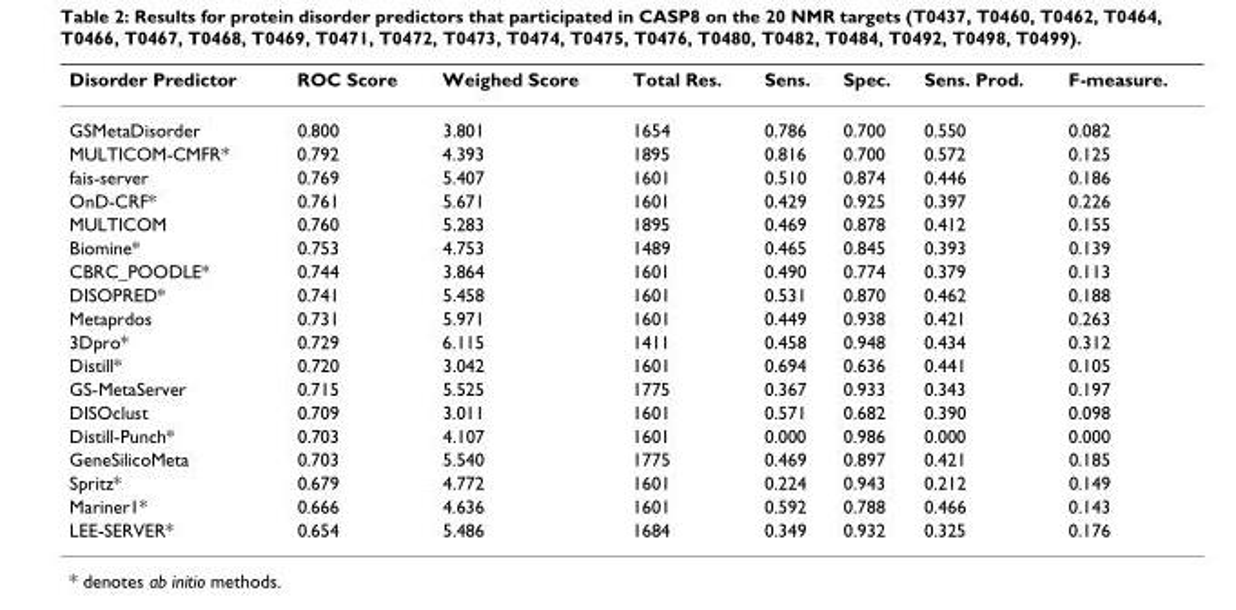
<table><thead><tr><td>Disorder Predictor</td><td>ROC Score</td><td>Weighed Score</td><td>Total Res.</td><td>Sens.</td><td>Spec.</td><td>Sens. Prod.</td><td>F-measure.</td></tr></thead><tbody><tr><td>GSMetaDisorder</td><td>0.800</td><td>3.801</td><td>1654</td><td>0.786</td><td>0.700</td><td>0.550</td><td>0.082</td></tr><tr><td>MULTICOM-CMFR*</td><td>0.792</td><td>4.393</td><td>1895</td><td>0.816</td><td>0.700</td><td>0.572</td><td>0.125</td></tr><tr><td>fais-server</td><td>0.769</td><td>5.407</td><td>1601</td><td>0.510</td><td>0.874</td><td>0.446</td><td>0.186</td></tr><tr><td>OnD-CRF*</td><td>0.761</td><td>5.671</td><td>1601</td><td>0.429</td><td>0.925</td><td>0.397</td><td>0.226</td></tr><tr><td>MULTICOM</td><td>0.760</td><td>5.283</td><td>1895</td><td>0.469</td><td>0.878</td><td>0.412</td><td>0.155</td></tr><tr><td>Biomine*</td><td>0.753</td><td>4.753</td><td>1489</td><td>0.465</td><td>0.845</td><td>0.393</td><td>0.139</td></tr><tr><td>CBRC_POODLE*</td><td>0.744</td><td>3.864</td><td>1601</td><td>0.490</td><td>0.774</td><td>0.379</td><td>0.113</td></tr><tr><td>DISOPRED*</td><td>0.741</td><td>5.458</td><td>1601</td><td>0.531</td><td>0.870</td><td>0.462</td><td>0.188</td></tr><tr><td>Metaprdos</td><td>0.731</td><td>5.971</td><td>1601</td><td>0.449</td><td>0.938</td><td>0.421</td><td>0.263</td></tr><tr><td>3Dpro*</td><td>0.729</td><td>6.115</td><td>1411</td><td>0.458</td><td>0.948</td><td>0.434</td><td>0.312</td></tr><tr><td>Distill*</td><td>0.720</td><td>3.042</td><td>1601</td><td>0.694</td><td>0.636</td><td>0.441</td><td>0.105</td></tr><tr><td>GS-MetaServer</td><td>0.715</td><td>5.525</td><td>1775</td><td>0.367</td><td>0.933</td><td>0.343</td><td>0.197</td></tr><tr><td>DISOclust</td><td>0.709</td><td>3.011</td><td>1601</td><td>0.571</td><td>0.682</td><td>0.390</td><td>0.098</td></tr><tr><td>Distill-Punch*</td><td>0.703</td><td>4.107</td><td>1601</td><td>0.000</td><td>0.986</td><td>0.000</td><td>0.000</td></tr><tr><td>GeneSilicoMeta</td><td>0.703</td><td>5.540</td><td>1775</td><td>0.469</td><td>0.897</td><td>0.421</td><td>0.185</td></tr><tr><td>Spritz*</td><td>0.679</td><td>4.772</td><td>1601</td><td>0.224</td><td>0.943</td><td>0.212</td><td>0.149</td></tr><tr><td>Mariner1*</td><td>0.666</td><td>4.636</td><td>1601</td><td>0.592</td><td>0.788</td><td>0.466</td><td>0.143</td></tr><tr><td>LEE-SERVER*</td><td>0.654</td><td>5.486</td><td>1684</td><td>0.349</td><td>0.932</td><td>0.325</td><td>0.176</td></tr></tbody></table>